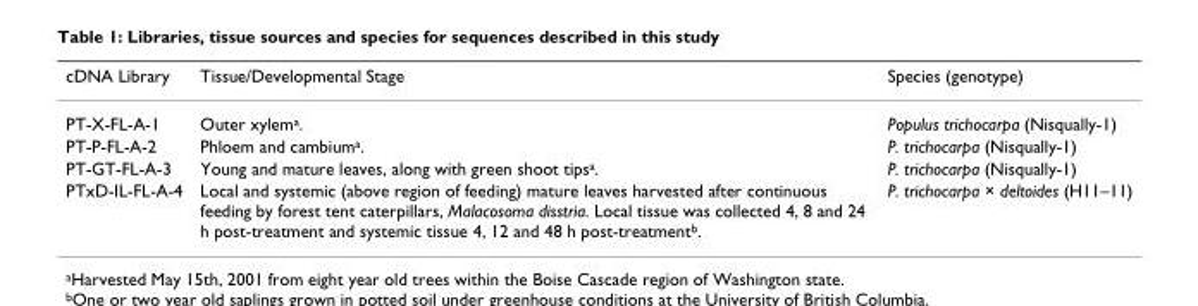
<table><thead><tr><td>cDNA Library</td><td>Tissue/Developmental Stage</td><td>Species (genotype)</td></tr></thead><tbody><tr><td>PT-X-FL-A-1</td><td>Outer xylem<sup>a</sup>.</td><td>Populus trichocarpa (Nisqually-1)</td></tr><tr><td>PT-P-FL-A-2</td><td>Phloem and cambium<sup>a</sup>.</td><td>P. trichocarpa (Nisqually-1)</td></tr><tr><td>PT-GT-FL-A-3</td><td>Young and mature leaves, along with green shoot tips<sup>a</sup>.</td><td>P. trichocarpa (Nisqually-1)</td></tr><tr><td>PTxD-IL-FL-A-4</td><td>Local and systemic (above region of feeding) mature leaves harvested after continuous feeding by forest tent caterpillars, Malacosoma disstria. Local tissue was collected 4, 8 and 24 h post-treatment and systemic tissue 4, 12 and 48 h post-treatment<sup>b</sup>.</td><td>P. trichocarpa × deltoides (H11–11)</td></tr></tbody></table>